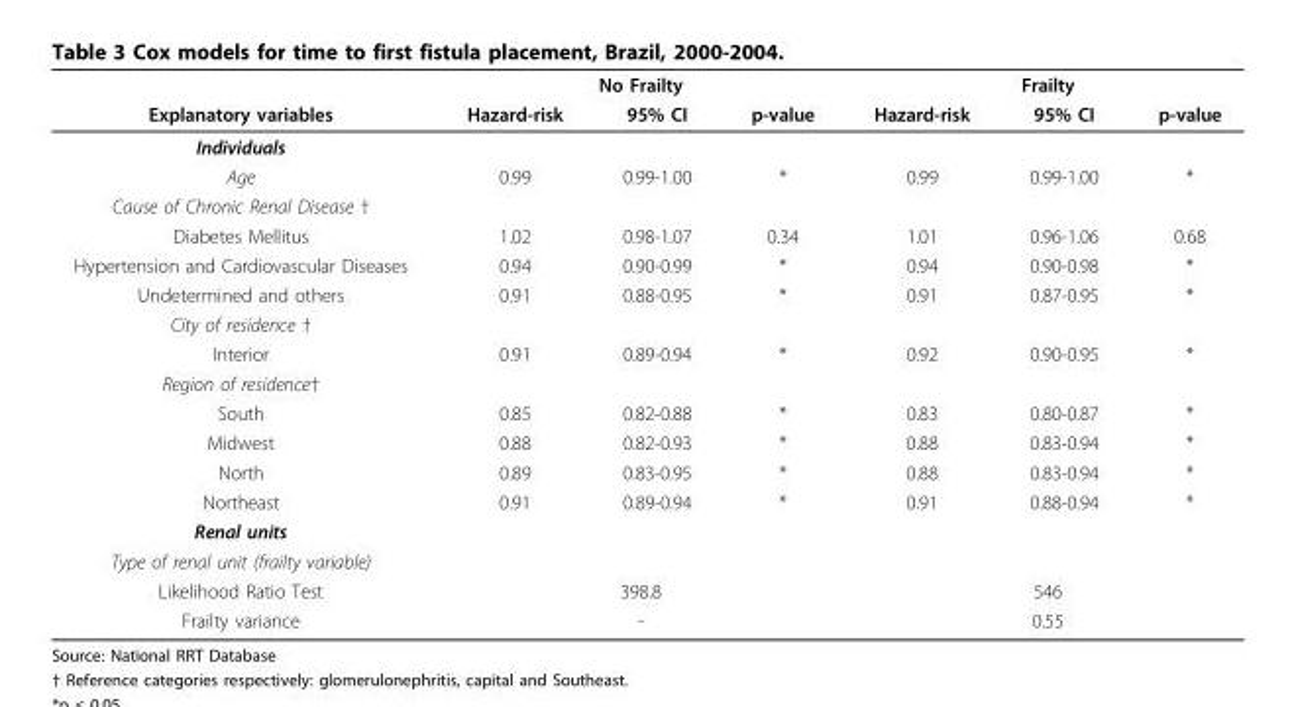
<table><thead><tr><td rowspan="2">Explanatory variables</td><td colspan="3">No Frailty</td><td colspan="3">Frailty</td></tr><tr><td>Hazard-risk</td><td>95% CI</td><td>p-value</td><td>Hazard-risk</td><td>95% CI</td><td>p-value</td></tr></thead><tbody><tr><td colspan="7">Individuals</td></tr><tr><td>Age</td><td>0.99</td><td>0.99-1.00</td><td>*</td><td>0.99</td><td>0.99-1.00</td><td>*</td></tr><tr><td colspan="7">Cause of Chronic Renal Disease †</td></tr><tr><td>Diabetes Mellitus</td><td>1.02</td><td>0.98-1.07</td><td>0.34</td><td>1.01</td><td>0.96-1.06</td><td>0.68</td></tr><tr><td>Hypertension and Cardiovascular Diseases</td><td>0.94</td><td>0.90-0.99</td><td>*</td><td>0.94</td><td>0.90-0.98</td><td>*</td></tr><tr><td>Undetermined and others</td><td>0.91</td><td>0.88-0.95</td><td>*</td><td>0.91</td><td>0.87-0.95</td><td>*</td></tr><tr><td colspan="7">City of residence †</td></tr><tr><td>Interior</td><td>0.91</td><td>0.89-0.94</td><td>*</td><td>0.92</td><td>0.90-0.95</td><td>*</td></tr><tr><td colspan="7">Region of residence†</td></tr><tr><td>South</td><td>0.85</td><td>0.82-0.88</td><td>*</td><td>0.83</td><td>0.80-0.87</td><td>*</td></tr><tr><td>Midwest</td><td>0.88</td><td>0.82-0.93</td><td>*</td><td>0.88</td><td>0.83-0.94</td><td>*</td></tr><tr><td>North</td><td>0.89</td><td>0.83-0.95</td><td>*</td><td>0.88</td><td>0.83-0.94</td><td>*</td></tr><tr><td>Northeast</td><td>0.91</td><td>0.89-0.94</td><td>*</td><td>0.91</td><td>0.88-0.94</td><td>*</td></tr><tr><td colspan="7">Renal units</td></tr><tr><td colspan="7">Type of renal unit (frailty variable)</td></tr><tr><td>Likelihood Ratio Test</td><td colspan="3">398.8</td><td colspan="3">546</td></tr><tr><td>Frailty variance</td><td colspan="3">-</td><td colspan="3">0.55</td></tr></tbody></table>